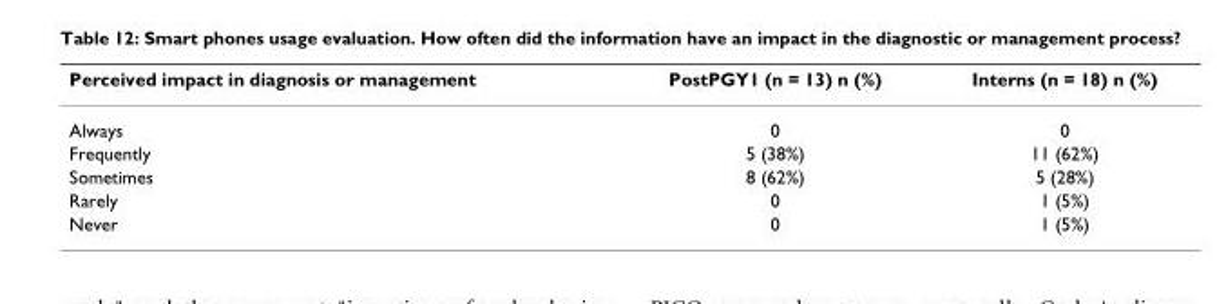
<table><thead><tr><td>Perceived impact in diagnosis or management</td><td>PostPGY1 (n = 13) n (%)</td><td>Interns (n = 18) n (%)</td></tr></thead><tbody><tr><td>Always</td><td>0</td><td>0</td></tr><tr><td>Frequently</td><td>5 (38%)</td><td>11 (62%)</td></tr><tr><td>Sometimes</td><td>8 (62%)</td><td>5 (28%)</td></tr><tr><td>Rarely</td><td>0</td><td>1 (5%)</td></tr><tr><td>Never</td><td>0</td><td>1 (5%)</td></tr></tbody></table>